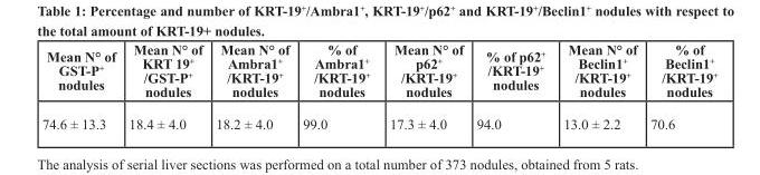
<table><thead><tr><td>Mean N° of GST-P<sup>+</sup> nodules</td><td>Mean N° of KRT 19<sup>+</sup> /GST-P<sup>+</sup> nodules</td><td>Mean N° of Ambra1<sup>+</sup> /KRT-19<sup>+</sup> nodules</td><td>% of Ambra1<sup>+</sup> /KRT-19<sup>+</sup> nodules</td><td>Mean N° of p62<sup>+</sup> /KRT-19<sup>+</sup> nodules</td><td>% of p62<sup>+</sup> /KRT-19<sup>+</sup> nodules</td><td>Mean N° of Beclin1<sup>+</sup> /KRT-19<sup>+</sup> nodules</td><td>% of Beclin1<sup>+</sup> /KRT-19<sup>+</sup> nodules</td></tr></thead><tbody><tr><td>74.6 ± 13.3</td><td>18.4 ± 4.0</td><td>18.2 ± 4.0</td><td>99.0</td><td>17.3 ± 4.0</td><td>94.0</td><td>13.0 ± 2.2</td><td>70.6</td></tr></tbody></table>